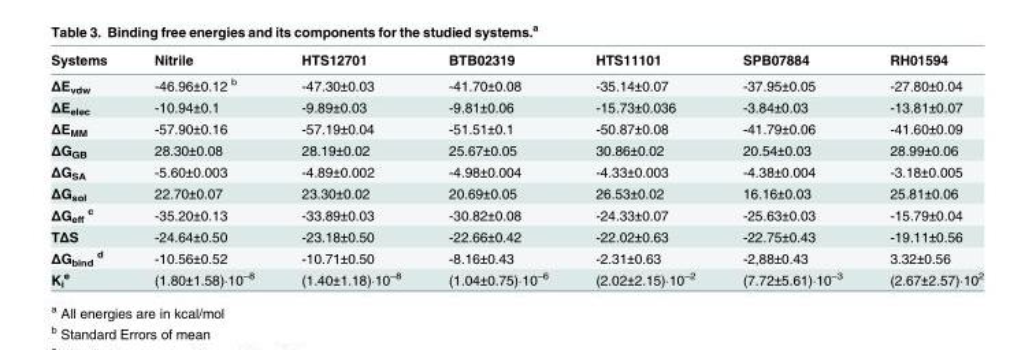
<table><thead><tr><td>Systems</td><td>Nitrile</td><td>HTS12701</td><td>BTB02319</td><td>HTS11101</td><td>SPB07884</td><td>RH01594</td></tr></thead><tbody><tr><td>ΔE<sub>vdw</sub></td><td>-46.96±0.12 <sup>b</sup></td><td>-47.30±0.03</td><td>-41.70±0.08</td><td>-35.14±0.07</td><td>-37.95±0.05</td><td>-27.80±0.04</td></tr><tr><td>ΔE<sub>elec</sub></td><td>-10.94±0.1</td><td>-9.89±0.03</td><td>-9.81±0.06</td><td>-15.73±0.036</td><td>-3.84±0.03</td><td>-13.81±0.07</td></tr><tr><td>ΔE<sub>MM</sub></td><td>-57.90±0.16</td><td>-57.19±0.04</td><td>-51.51±0.1</td><td>-50.87±0.08</td><td>-41.79±0.06</td><td>-41.60±0.09</td></tr><tr><td>ΔG<sub>GB</sub></td><td>28.30±0.08</td><td>28.19±0.02</td><td>25.67±0.05</td><td>30.86±0.02</td><td>20.54±0.03</td><td>28.99±0.06</td></tr><tr><td>ΔG<sub>SA</sub></td><td>-5.60±0.003</td><td>-4.89±0.002</td><td>-4.98±0.004</td><td>-4.33±0.003</td><td>-4.38±0.004</td><td>-3.18±0.005</td></tr><tr><td>ΔG<sub>sol</sub></td><td>22.70±0.07</td><td>23.30±0.02</td><td>20.69±0.05</td><td>26.53±0.02</td><td>16.16±0.03</td><td>25.81±0.06</td></tr><tr><td>ΔG<sub>eff</sub> <sup>c</sup></td><td>-35.20±0.13</td><td>-33.89±0.03</td><td>-30.82±0.08</td><td>-24.33±0.07</td><td>-25.63±0.03</td><td>-15.79±0.04</td></tr><tr><td>TΔS</td><td>-24.64±0.50</td><td>-23.18±0.50</td><td>-22.66±0.42</td><td>-22.02±0.63</td><td>-22.75±0.43</td><td>-19.11±0.56</td></tr><tr><td>ΔG<sub>bind</sub> <sup>d</sup></td><td>-10.56±0.52</td><td>-10.71±0.50</td><td>-8.16±0.43</td><td>-2.31±0.63</td><td>-2,88±0.43</td><td>3.32±0.56</td></tr><tr><td>K<sub>i</sub> <sup>e</sup></td><td>(1.80±1.58)∙10<sup>–8</sup></td><td>(1.40±1.18)∙10<sup>–8</sup></td><td>(1.04±0.75)∙10<sup>–6</sup></td><td>(2.02±2.15)∙10<sup>–2</sup></td><td>(7.72±5.61)∙10<sup>–3</sup></td><td>(2.67±2.57)∙10<sup>2</sup></td></tr></tbody></table>